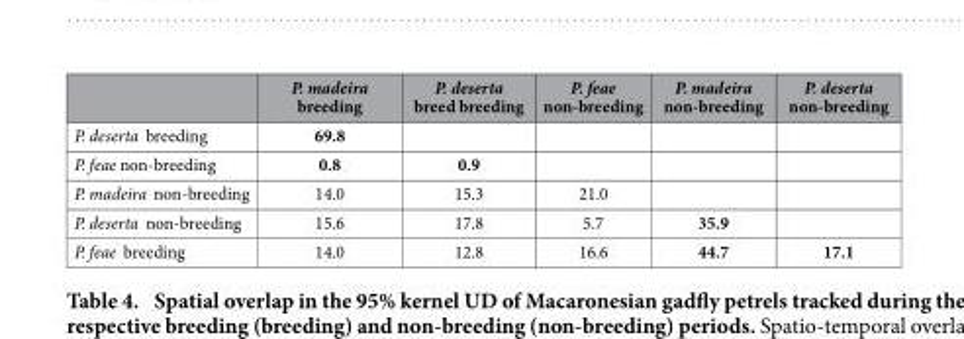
<table><thead><tr><td></td><td>P. madeira breeding</td><td>P. deserta breed breeding</td><td>P. feae non-breeding</td><td>P. madeira non-breeding</td><td>P. deserta non-breeding</td></tr></thead><tbody><tr><td>P. deserta breeding</td><td>69.8</td><td></td><td></td><td></td><td></td></tr><tr><td>P. feae non-breeding</td><td>0.8</td><td>0.9</td><td></td><td></td><td></td></tr><tr><td>P. madeira non-breeding</td><td>14.0</td><td>15.3</td><td>21.0</td><td></td><td></td></tr><tr><td>P. deserta non-breeding</td><td>15.6</td><td>17.8</td><td>5.7</td><td>35.9</td><td></td></tr><tr><td>P. feae breeding</td><td>14.0</td><td>12.8</td><td>16.6</td><td>44.7</td><td>17.1</td></tr></tbody></table>